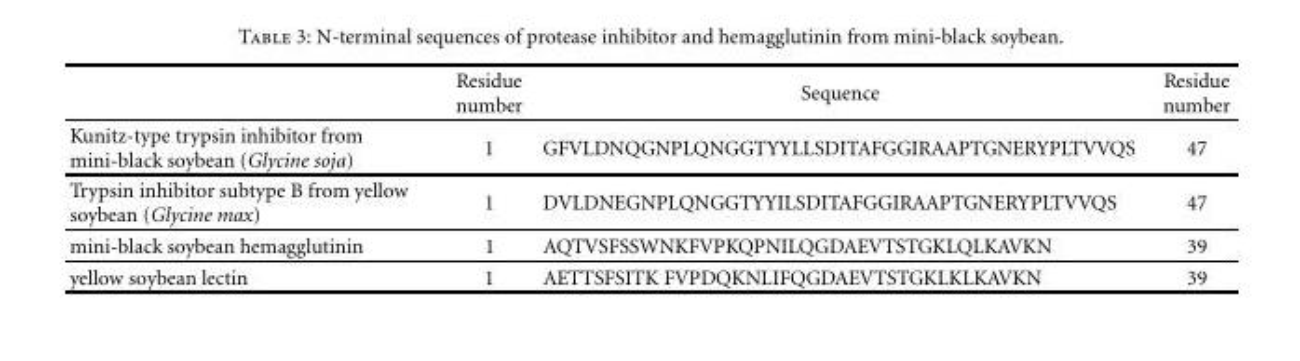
<table><thead><tr><td></td><td>Residue number</td><td>Sequence</td><td>Residue number</td></tr></thead><tbody><tr><td>Kunitz-type trypsin inhibitor from mini-black soybean (Glycine soja)</td><td>1</td><td>GFVLDNQGNPLQNGGTYYLLSDITAFGGIRAAPTGNERYPLTVVQS</td><td>47</td></tr><tr><td>Trypsin inhibitor subtype B from yellow soybean (Glycine max)</td><td>1</td><td>DVLDNEGNPLQNGGTYYILSDITAFGGIRAAPTGNERYPLTVVQS</td><td>47</td></tr><tr><td>mini-black soybean hemagglutinin</td><td>1</td><td>AQTVSFSSWNKFVPKQPNILQGDAEVTSTGKLQLKAVKN</td><td>39</td></tr><tr><td>yellow soybean lectin</td><td>1</td><td>AETTSFSITK FVPDQKNLIFQGDAEVTSTGKLKLKAVKN</td><td>39</td></tr></tbody></table>